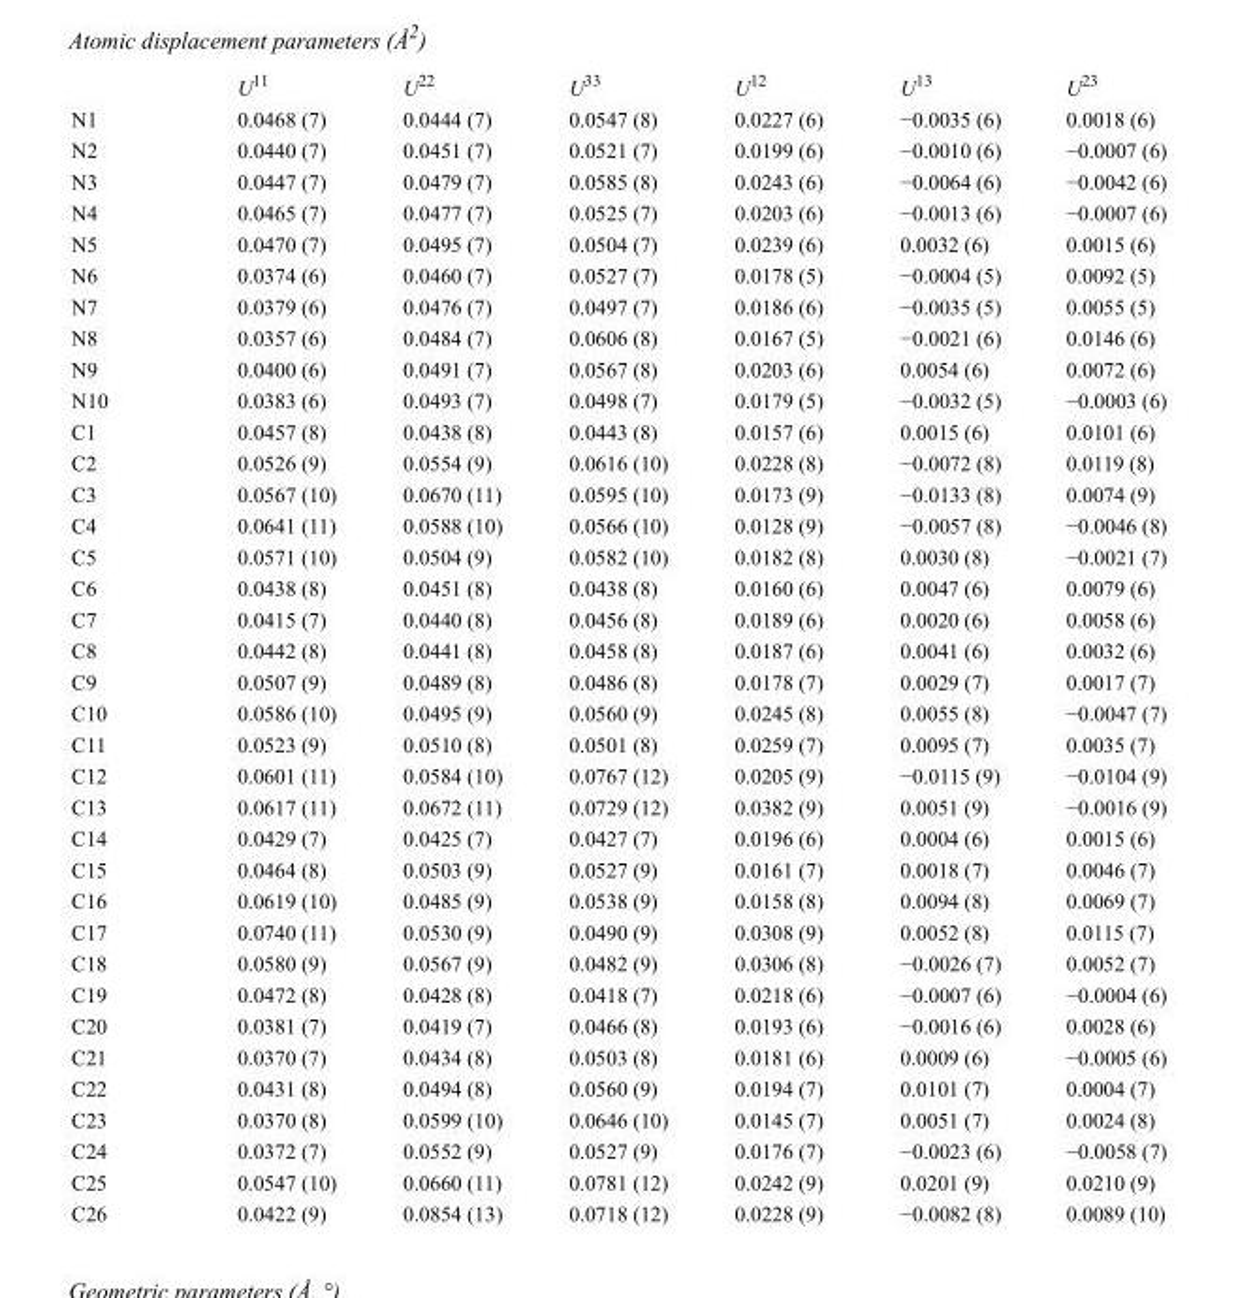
<table><thead><tr><td></td><td>U<sup>11</sup></td><td>U<sup>22</sup></td><td>U<sup>33</sup></td><td>U<sup>12</sup></td><td>U<sup>13</sup></td><td>U<sup>23</sup></td></tr></thead><tbody><tr><td>N1</td><td>0.0468 (7)</td><td>0.0444 (7)</td><td>0.0547 (8)</td><td>0.0227 (6)</td><td>−0.0035 (6)</td><td>0.0018 (6)</td></tr><tr><td>N2</td><td>0.0440 (7)</td><td>0.0451 (7)</td><td>0.0521 (7)</td><td>0.0199 (6)</td><td>−0.0010 (6)</td><td>−0.0007 (6)</td></tr><tr><td>N3</td><td>0.0447 (7)</td><td>0.0479 (7)</td><td>0.0585 (8)</td><td>0.0243 (6)</td><td>−0.0064 (6)</td><td>−0.0042 (6)</td></tr><tr><td>N4</td><td>0.0465 (7)</td><td>0.0477 (7)</td><td>0.0525 (7)</td><td>0.0203 (6)</td><td>−0.0013 (6)</td><td>−0.0007 (6)</td></tr><tr><td>N5</td><td>0.0470 (7)</td><td>0.0495 (7)</td><td>0.0504 (7)</td><td>0.0239 (6)</td><td>0.0032 (6)</td><td>0.0015 (6)</td></tr><tr><td>N6</td><td>0.0374 (6)</td><td>0.0460 (7)</td><td>0.0527 (7)</td><td>0.0178 (5)</td><td>−0.0004 (5)</td><td>0.0092 (5)</td></tr><tr><td>N7</td><td>0.0379 (6)</td><td>0.0476 (7)</td><td>0.0497 (7)</td><td>0.0186 (6)</td><td>−0.0035 (5)</td><td>0.0055 (5)</td></tr><tr><td>N8</td><td>0.0357 (6)</td><td>0.0484 (7)</td><td>0.0606 (8)</td><td>0.0167 (5)</td><td>−0.0021 (6)</td><td>0.0146 (6)</td></tr><tr><td>N9</td><td>0.0400 (6)</td><td>0.0491 (7)</td><td>0.0567 (8)</td><td>0.0203 (6)</td><td>0.0054 (6)</td><td>0.0072 (6)</td></tr><tr><td>N10</td><td>0.0383 (6)</td><td>0.0493 (7)</td><td>0.0498 (7)</td><td>0.0179 (5)</td><td>−0.0032 (5)</td><td>−0.0003 (6)</td></tr><tr><td>C1</td><td>0.0457 (8)</td><td>0.0438 (8)</td><td>0.0443 (8)</td><td>0.0157 (6)</td><td>0.0015 (6)</td><td>0.0101 (6)</td></tr><tr><td>C2</td><td>0.0526 (9)</td><td>0.0554 (9)</td><td>0.0616 (10)</td><td>0.0228 (8)</td><td>−0.0072 (8)</td><td>0.0119 (8)</td></tr><tr><td>C3</td><td>0.0567 (10)</td><td>0.0670 (11)</td><td>0.0595 (10)</td><td>0.0173 (9)</td><td>−0.0133 (8)</td><td>0.0074 (9)</td></tr><tr><td>C4</td><td>0.0641 (11)</td><td>0.0588 (10)</td><td>0.0566 (10)</td><td>0.0128 (9)</td><td>−0.0057 (8)</td><td>−0.0046 (8)</td></tr><tr><td>C5</td><td>0.0571 (10)</td><td>0.0504 (9)</td><td>0.0582 (10)</td><td>0.0182 (8)</td><td>0.0030 (8)</td><td>−0.0021 (7)</td></tr><tr><td>C6</td><td>0.0438 (8)</td><td>0.0451 (8)</td><td>0.0438 (8)</td><td>0.0160 (6)</td><td>0.0047 (6)</td><td>0.0079 (6)</td></tr><tr><td>C7</td><td>0.0415 (7)</td><td>0.0440 (8)</td><td>0.0456 (8)</td><td>0.0189 (6)</td><td>0.0020 (6)</td><td>0.0058 (6)</td></tr><tr><td>C8</td><td>0.0442 (8)</td><td>0.0441 (8)</td><td>0.0458 (8)</td><td>0.0187 (6)</td><td>0.0041 (6)</td><td>0.0032 (6)</td></tr><tr><td>C9</td><td>0.0507 (9)</td><td>0.0489 (8)</td><td>0.0486 (8)</td><td>0.0178 (7)</td><td>0.0029 (7)</td><td>0.0017 (7)</td></tr><tr><td>C10</td><td>0.0586 (10)</td><td>0.0495 (9)</td><td>0.0560 (9)</td><td>0.0245 (8)</td><td>0.0055 (8)</td><td>−0.0047 (7)</td></tr><tr><td>C11</td><td>0.0523 (9)</td><td>0.0510 (8)</td><td>0.0501 (8)</td><td>0.0259 (7)</td><td>0.0095 (7)</td><td>0.0035 (7)</td></tr><tr><td>C12</td><td>0.0601 (11)</td><td>0.0584 (10)</td><td>0.0767 (12)</td><td>0.0205 (9)</td><td>−0.0115 (9)</td><td>−0.0104 (9)</td></tr><tr><td>C13</td><td>0.0617 (11)</td><td>0.0672 (11)</td><td>0.0729 (12)</td><td>0.0382 (9)</td><td>0.0051 (9)</td><td>−0.0016 (9)</td></tr><tr><td>C14</td><td>0.0429 (7)</td><td>0.0425 (7)</td><td>0.0427 (7)</td><td>0.0196 (6)</td><td>0.0004 (6)</td><td>0.0015 (6)</td></tr><tr><td>C15</td><td>0.0464 (8)</td><td>0.0503 (9)</td><td>0.0527 (9)</td><td>0.0161 (7)</td><td>0.0018 (7)</td><td>0.0046 (7)</td></tr><tr><td>C16</td><td>0.0619 (10)</td><td>0.0485 (9)</td><td>0.0538 (9)</td><td>0.0158 (8)</td><td>0.0094 (8)</td><td>0.0069 (7)</td></tr><tr><td>C17</td><td>0.0740 (11)</td><td>0.0530 (9)</td><td>0.0490 (9)</td><td>0.0308 (9)</td><td>0.0052 (8)</td><td>0.0115 (7)</td></tr><tr><td>C18</td><td>0.0580 (9)</td><td>0.0567 (9)</td><td>0.0482 (9)</td><td>0.0306 (8)</td><td>−0.0026 (7)</td><td>0.0052 (7)</td></tr><tr><td>C19</td><td>0.0472 (8)</td><td>0.0428 (8)</td><td>0.0418 (7)</td><td>0.0218 (6)</td><td>−0.0007 (6)</td><td>−0.0004 (6)</td></tr><tr><td>C20</td><td>0.0381 (7)</td><td>0.0419 (7)</td><td>0.0466 (8)</td><td>0.0193 (6)</td><td>−0.0016 (6)</td><td>0.0028 (6)</td></tr><tr><td>C21</td><td>0.0370 (7)</td><td>0.0434 (8)</td><td>0.0503 (8)</td><td>0.0181 (6)</td><td>0.0009 (6)</td><td>−0.0005 (6)</td></tr><tr><td>C22</td><td>0.0431 (8)</td><td>0.0494 (8)</td><td>0.0560 (9)</td><td>0.0194 (7)</td><td>0.0101 (7)</td><td>0.0004 (7)</td></tr><tr><td>C23</td><td>0.0370 (8)</td><td>0.0599 (10)</td><td>0.0646 (10)</td><td>0.0145 (7)</td><td>0.0051 (7)</td><td>0.0024 (8)</td></tr><tr><td>C24</td><td>0.0372 (7)</td><td>0.0552 (9)</td><td>0.0527 (9)</td><td>0.0176 (7)</td><td>−0.0023 (6)</td><td>−0.0058 (7)</td></tr><tr><td>C25</td><td>0.0547 (10)</td><td>0.0660 (11)</td><td>0.0781 (12)</td><td>0.0242 (9)</td><td>0.0201 (9)</td><td>0.0210 (9)</td></tr><tr><td>C26</td><td>0.0422 (9)</td><td>0.0854 (13)</td><td>0.0718 (12)</td><td>0.0228 (9)</td><td>−0.0082 (8)</td><td>0.0089 (10)</td></tr></tbody></table>